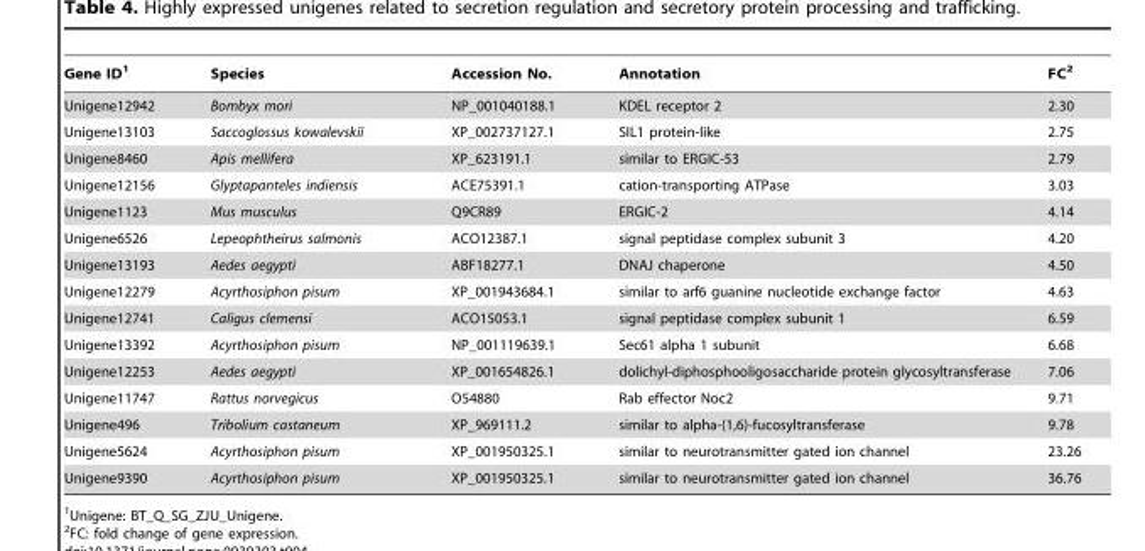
<table><thead><tr><td>Gene ID<sup>1</sup></td><td>Species</td><td>Accession No.</td><td>Annotation</td><td>FC<sup>2</sup></td></tr></thead><tbody><tr><td>Unigene12942</td><td>Bombyx mori</td><td>NP_001040188.1</td><td>KDEL receptor 2</td><td>2.30</td></tr><tr><td>Unigene13103</td><td>Saccoglossus kowalevskii</td><td>XP_002737127.1</td><td>SIL1 protein-like</td><td>2.75</td></tr><tr><td>Unigene8460</td><td>Apis mellifera</td><td>XP_623191.1</td><td>similar to ERGIC-53</td><td>2.79</td></tr><tr><td>Unigene12156</td><td>Glyptapanteles indiensis</td><td>ACE75391.1</td><td>cation-transporting ATPase</td><td>3.03</td></tr><tr><td>Unigene1123</td><td>Mus musculus</td><td>Q9CR89</td><td>ERGIC-2</td><td>4.14</td></tr><tr><td>Unigene6526</td><td>Lepeophtheirus salmonis</td><td>ACO12387.1</td><td>signal peptidase complex subunit 3</td><td>4.20</td></tr><tr><td>Unigene13193</td><td>Aedes aegypti</td><td>ABF18277.1</td><td>DNAJ chaperone</td><td>4.50</td></tr><tr><td>Unigene12279</td><td>Acyrthosiphon pisum</td><td>XP_001943684.1</td><td>similar to arf6 guanine nucleotide exchange factor</td><td>4.63</td></tr><tr><td>Unigene12741</td><td>Caligus clemensi</td><td>ACO15053.1</td><td>signal peptidase complex subunit 1</td><td>6.59</td></tr><tr><td>Unigene13392</td><td>Acyrthosiphon pisum</td><td>NP_001119639.1</td><td>Sec61 alpha 1 subunit</td><td>6.68</td></tr><tr><td>Unigene12253</td><td>Aedes aegypti</td><td>XP_001654826.1</td><td>dolichyl-diphosphooligosaccharide protein glycosyltransferase</td><td>7.06</td></tr><tr><td>Unigene11747</td><td>Rattus norvegicus</td><td>O54880</td><td>Rab effector Noc2</td><td>9.71</td></tr><tr><td>Unigene496</td><td>Tribolium castaneum</td><td>XP_969111.2</td><td>similar to alpha-(1,6)-fucosyltransferase</td><td>9.78</td></tr><tr><td>Unigene5624</td><td>Acyrthosiphon pisum</td><td>XP_001950325.1</td><td>similar to neurotransmitter gated ion channel</td><td>23.26</td></tr><tr><td>Unigene9390</td><td>Acyrthosiphon pisum</td><td>XP_001950325.1</td><td>similar to neurotransmitter gated ion channel</td><td>36.76</td></tr></tbody></table>